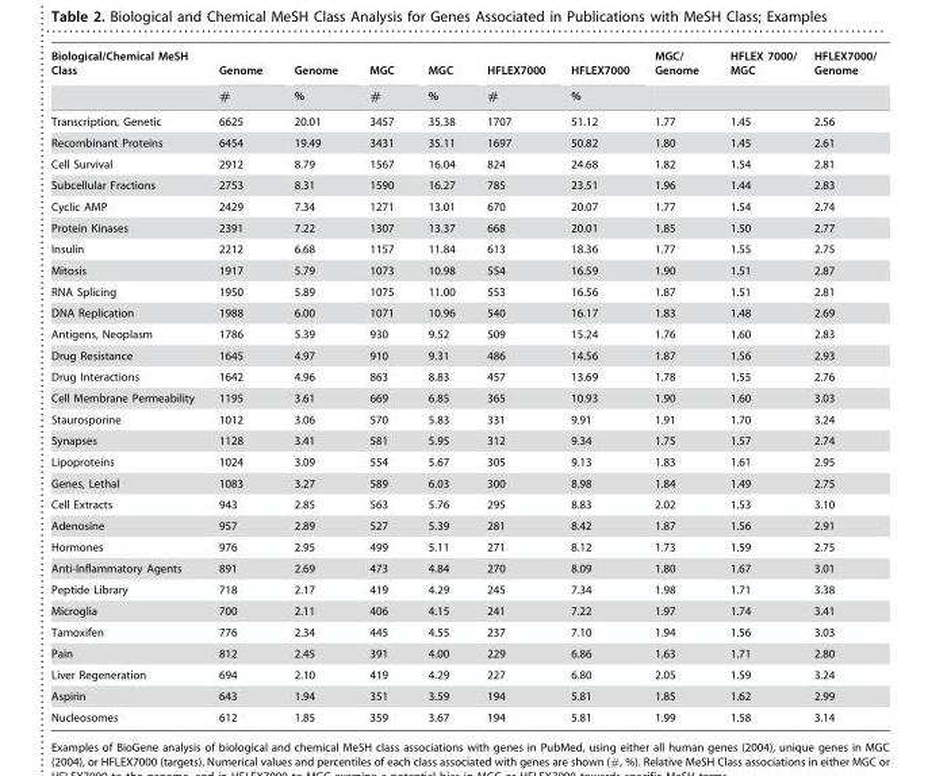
<table><thead><tr><td rowspan="2">Biological/Chemical MeSH Class</td><td rowspan="2">Genome #</td><td rowspan="2">Genome %</td><td rowspan="2">MGC #</td><td rowspan="2">MGC %</td><td rowspan="2">HFLEX7000 #</td><td rowspan="2">HFLEX7000 %</td><td rowspan="2">MGC/ Genome</td><td rowspan="2">HFLEX 7000/ MGC</td><td rowspan="2">HFLEX7000/ Genome</td></tr><tr></tr></thead><tbody><tr><td>Transcription, Genetic</td><td>6625</td><td>20.01</td><td>3457</td><td>35.38</td><td>1707</td><td>51.12</td><td>1.77</td><td>1.45</td><td>2.56</td></tr><tr><td>Recombinant Proteins</td><td>6454</td><td>19.49</td><td>3431</td><td>35.11</td><td>1697</td><td>50.82</td><td>1.80</td><td>1.45</td><td>2.61</td></tr><tr><td>Cell Survival</td><td>2912</td><td>8.79</td><td>1567</td><td>16.04</td><td>824</td><td>24.68</td><td>1.82</td><td>1.54</td><td>2.81</td></tr><tr><td>Subcellular Fractions</td><td>2753</td><td>8.31</td><td>1590</td><td>16.27</td><td>785</td><td>23.51</td><td>1.96</td><td>1.44</td><td>2.83</td></tr><tr><td>Cyclic AMP</td><td>2429</td><td>7.34</td><td>1271</td><td>13.01</td><td>670</td><td>20.07</td><td>1.77</td><td>1.54</td><td>2.74</td></tr><tr><td>Protein Kinases</td><td>2391</td><td>7.22</td><td>1307</td><td>13.37</td><td>668</td><td>20.01</td><td>1.85</td><td>1.50</td><td>2.77</td></tr><tr><td>Insulin</td><td>2212</td><td>6.68</td><td>1157</td><td>11.84</td><td>613</td><td>18.36</td><td>1.77</td><td>1.55</td><td>2.75</td></tr><tr><td>Mitosis</td><td>1917</td><td>5.79</td><td>1073</td><td>10.98</td><td>554</td><td>16.59</td><td>1.90</td><td>1.51</td><td>2.87</td></tr><tr><td>RNA Splicing</td><td>1950</td><td>5.89</td><td>1075</td><td>11.00</td><td>553</td><td>16.56</td><td>1.87</td><td>1.51</td><td>2.81</td></tr><tr><td>DNA Replication</td><td>1988</td><td>6.00</td><td>1071</td><td>10.96</td><td>540</td><td>16.17</td><td>1.83</td><td>1.48</td><td>2.69</td></tr><tr><td>Antigens, Neoplasm</td><td>1786</td><td>5.39</td><td>930</td><td>9.52</td><td>509</td><td>15.24</td><td>1.76</td><td>1.60</td><td>2.83</td></tr><tr><td>Drug Resistance</td><td>1645</td><td>4.97</td><td>910</td><td>9.31</td><td>486</td><td>14.56</td><td>1.87</td><td>1.56</td><td>2.93</td></tr><tr><td>Drug Interactions</td><td>1642</td><td>4.96</td><td>863</td><td>8.83</td><td>457</td><td>13.69</td><td>1.78</td><td>1.55</td><td>2.76</td></tr><tr><td>Cell Membrane Permeability</td><td>1195</td><td>3.61</td><td>669</td><td>6.85</td><td>365</td><td>10.93</td><td>1.90</td><td>1.60</td><td>3.03</td></tr><tr><td>Staurosporine</td><td>1012</td><td>3.06</td><td>570</td><td>5.83</td><td>331</td><td>9.91</td><td>1.91</td><td>1.70</td><td>3.24</td></tr><tr><td>Synapses</td><td>1128</td><td>3.41</td><td>581</td><td>5.95</td><td>312</td><td>9.34</td><td>1.75</td><td>1.57</td><td>2.74</td></tr><tr><td>Lipoproteins</td><td>1024</td><td>3.09</td><td>554</td><td>5.67</td><td>305</td><td>9.13</td><td>1.83</td><td>1.61</td><td>2.95</td></tr><tr><td>Genes, Lethal</td><td>1083</td><td>3.27</td><td>589</td><td>6.03</td><td>300</td><td>8.98</td><td>1.84</td><td>1.49</td><td>2.75</td></tr><tr><td>Cell Extracts</td><td>943</td><td>2.85</td><td>563</td><td>5.76</td><td>295</td><td>8.83</td><td>2.02</td><td>1.53</td><td>3.10</td></tr><tr><td>Adenosine</td><td>957</td><td>2.89</td><td>527</td><td>5.39</td><td>281</td><td>8.42</td><td>1.87</td><td>1.56</td><td>2.91</td></tr><tr><td>Hormones</td><td>976</td><td>2.95</td><td>499</td><td>5.11</td><td>271</td><td>8.12</td><td>1.73</td><td>1.59</td><td>2.75</td></tr><tr><td>Anti-Inflammatory Agents</td><td>891</td><td>2.69</td><td>473</td><td>4.84</td><td>270</td><td>8.09</td><td>1.80</td><td>1.67</td><td>3.01</td></tr><tr><td>Peptide Library</td><td>718</td><td>2.17</td><td>419</td><td>4.29</td><td>245</td><td>7.34</td><td>1.98</td><td>1.71</td><td>3.38</td></tr><tr><td>Microglia</td><td>700</td><td>2.11</td><td>406</td><td>4.15</td><td>241</td><td>7.22</td><td>1.97</td><td>1.74</td><td>3.41</td></tr><tr><td>Tamoxifen</td><td>776</td><td>2.34</td><td>445</td><td>4.55</td><td>237</td><td>7.10</td><td>1.94</td><td>1.56</td><td>3.03</td></tr><tr><td>Pain</td><td>812</td><td>2.45</td><td>391</td><td>4.00</td><td>229</td><td>6.86</td><td>1.63</td><td>1.71</td><td>2.80</td></tr><tr><td>Liver Regeneration</td><td>694</td><td>2.10</td><td>419</td><td>4.29</td><td>227</td><td>6.80</td><td>2.05</td><td>1.59</td><td>3.24</td></tr><tr><td>Aspirin</td><td>643</td><td>1.94</td><td>351</td><td>3.59</td><td>194</td><td>5.81</td><td>1.85</td><td>1.62</td><td>2.99</td></tr><tr><td>Nucleosomes</td><td>612</td><td>1.85</td><td>359</td><td>3.67</td><td>194</td><td>5.81</td><td>1.99</td><td>1.58</td><td>3.14</td></tr></tbody></table>